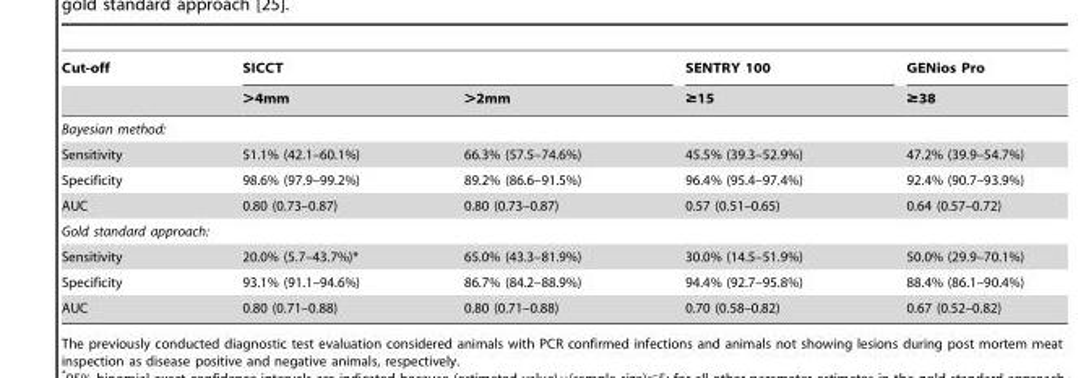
<table><thead><tr><td rowspan="2">Cut-off</td><td colspan="2">SICCT</td><td rowspan="2">SENTRY 100 ≥15</td><td rowspan="2">GENios Pro ≥38</td></tr><tr><td>&gt;4mm</td><td>&gt;2mm</td></tr></thead><tbody><tr><td colspan="5">Bayesian method:</td></tr><tr><td>Sensitivity</td><td>51.1% (42.1–60.1%)</td><td>66.3% (57.5–74.6%)</td><td>45.5% (39.3–52.9%)</td><td>47.2% (39.9–54.7%)</td></tr><tr><td>Specificity</td><td>98.6% (97.9–99.2%)</td><td>89.2% (86.6–91.5%)</td><td>96.4% (95.4–97.4%)</td><td>92.4% (90.7–93.9%)</td></tr><tr><td>AUC</td><td>0.80 (0.73–0.87)</td><td>0.80 (0.73–0.87)</td><td>0.57 (0.51–0.65)</td><td>0.64 (0.57–0.72)</td></tr><tr><td colspan="5">Gold standard approach:</td></tr><tr><td>Sensitivity</td><td>20.0% (5.7–43.7%)*</td><td>65.0% (43.3–81.9%)</td><td>30.0% (14.5–51.9%)</td><td>50.0% (29.9–70.1%)</td></tr><tr><td>Specificity</td><td>93.1% (91.1–94.6%)</td><td>86.7% (84.2–88.9%)</td><td>94.4% (92.7–95.8%)</td><td>88.4% (86.1–90.4%)</td></tr><tr><td>AUC</td><td>0.80 (0.71–0.88)</td><td>0.80 (0.71–0.88)</td><td>0.70 (0.58–0.82)</td><td>0.67 (0.52–0.82)</td></tr></tbody></table>